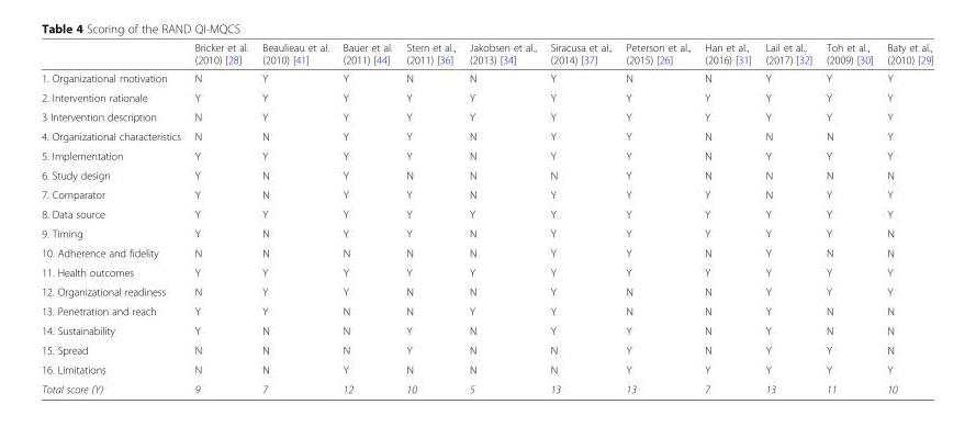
<table><thead><tr><td></td><td>Bricker et al. (2010) [28]</td><td>Beaulieau et al. (2010) [41]</td><td>Bauer et al. (2011) [44]</td><td>Stern et al., (2011) [36]</td><td>Jakobsen et al., (2013) [34]</td><td>Siracusa et al., (2014) [37]</td><td>Peterson et al., (2015) [26]</td><td>Han et al., (2016) [31]</td><td>Lail et al., (2017) [32]</td><td>Toh et al., (2009) [30]</td><td>Baty et al., (2010) [29]</td></tr></thead><tbody><tr><td>1. Organizational motivation</td><td>N</td><td>Y</td><td>Y</td><td>N</td><td>N</td><td>Y</td><td>N</td><td>N</td><td>Y</td><td>Y</td><td>Y</td></tr><tr><td>2. Intervention rationale</td><td>Y</td><td>Y</td><td>Y</td><td>Y</td><td>Y</td><td>Y</td><td>Y</td><td>Y</td><td>Y</td><td>Y</td><td>Y</td></tr><tr><td>3 Intervention description</td><td>N</td><td>Y</td><td>Y</td><td>Y</td><td>Y</td><td>Y</td><td>Y</td><td>Y</td><td>Y</td><td>Y</td><td>Y</td></tr><tr><td>4. Organizational characteristics</td><td>N</td><td>N</td><td>Y</td><td>Y</td><td>N</td><td>Y</td><td>Y</td><td>N</td><td>N</td><td>N</td><td>Y</td></tr><tr><td>5. Implementation</td><td>Y</td><td>Y</td><td>Y</td><td>Y</td><td>N</td><td>Y</td><td>Y</td><td>N</td><td>Y</td><td>Y</td><td>Y</td></tr><tr><td>6. Study design</td><td>Y</td><td>N</td><td>Y</td><td>N</td><td>N</td><td>N</td><td>Y</td><td>N</td><td>N</td><td>N</td><td>N</td></tr><tr><td>7. Comparator</td><td>Y</td><td>N</td><td>Y</td><td>Y</td><td>N</td><td>Y</td><td>Y</td><td>Y</td><td>N</td><td>Y</td><td>Y</td></tr><tr><td>8. Data source</td><td>Y</td><td>Y</td><td>Y</td><td>Y</td><td>Y</td><td>Y</td><td>Y</td><td>Y</td><td>Y</td><td>Y</td><td>Y</td></tr><tr><td>9. Timing</td><td>Y</td><td>N</td><td>Y</td><td>Y</td><td>N</td><td>Y</td><td>Y</td><td>Y</td><td>Y</td><td>Y</td><td>N</td></tr><tr><td>10. Adherence and fidelity</td><td>N</td><td>N</td><td>N</td><td>N</td><td>N</td><td>Y</td><td>Y</td><td>N</td><td>Y</td><td>N</td><td>N</td></tr><tr><td>11. Health outcomes</td><td>Y</td><td>Y</td><td>Y</td><td>Y</td><td>Y</td><td>Y</td><td>Y</td><td>Y</td><td>Y</td><td>Y</td><td>Y</td></tr><tr><td>12. Organizational readiness</td><td>N</td><td>Y</td><td>Y</td><td>N</td><td>N</td><td>Y</td><td>N</td><td>N</td><td>Y</td><td>Y</td><td>Y</td></tr><tr><td>13. Penetration and reach</td><td>Y</td><td>Y</td><td>N</td><td>N</td><td>Y</td><td>Y</td><td>N</td><td>N</td><td>Y</td><td>N</td><td>N</td></tr><tr><td>14. Sustainability</td><td>Y</td><td>N</td><td>N</td><td>Y</td><td>N</td><td>Y</td><td>Y</td><td>N</td><td>Y</td><td>N</td><td>N</td></tr><tr><td>15. Spread</td><td>N</td><td>N</td><td>N</td><td>Y</td><td>N</td><td>N</td><td>Y</td><td>N</td><td>Y</td><td>Y</td><td>N</td></tr><tr><td>16. Limitations</td><td>N</td><td>N</td><td>Y</td><td>N</td><td>N</td><td>N</td><td>Y</td><td>Y</td><td>Y</td><td>Y</td><td>Y</td></tr><tr><td>Total score (Y)</td><td>9</td><td>7</td><td>12</td><td>10</td><td>5</td><td>13</td><td>13</td><td>7</td><td>13</td><td>11</td><td>10</td></tr></tbody></table>